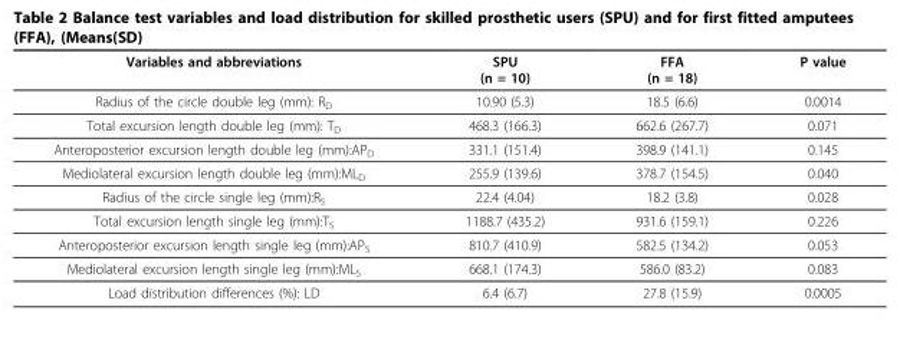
<table><thead><tr><td>Variables and abbreviations</td><td>SPU (n = 10)</td><td>FFA (n = 18)</td><td>P value</td></tr></thead><tbody><tr><td>Radius of the circle double leg (mm): R<sub>D</sub></td><td>10.90 (5.3)</td><td>18.5 (6.6)</td><td>0.0014</td></tr><tr><td>Total excursion length double leg (mm): T<sub>D</sub></td><td>468.3 (166.3)</td><td>662.6 (267.7)</td><td>0.071</td></tr><tr><td>Anteroposterior excursion length double leg (mm):AP<sub>D</sub></td><td>331.1 (151.4)</td><td>398.9 (141.1)</td><td>0.145</td></tr><tr><td>Mediolateral excursion length double leg (mm):ML<sub>D</sub></td><td>255.9 (139.6)</td><td>378.7 (154.5)</td><td>0.040</td></tr><tr><td>Radius of the circle single leg (mm):R<sub>S</sub></td><td>22.4 (4.04)</td><td>18.2 (3.8)</td><td>0.028</td></tr><tr><td>Total excursion length single leg (mm):T<sub>S</sub></td><td>1188.7 (435.2)</td><td>931.6 (159.1)</td><td>0.226</td></tr><tr><td>Anteroposterior excursion length single leg (mm):AP<sub>S</sub></td><td>810.7 (410.9)</td><td>582.5 (134.2)</td><td>0.053</td></tr><tr><td>Mediolateral excursion length single leg (mm):ML<sub>S</sub></td><td>668.1 (174.3)</td><td>586.0 (83.2)</td><td>0.083</td></tr><tr><td>Load distribution differences (%): LD</td><td>6.4 (6.7)</td><td>27.8 (15.9)</td><td>0.0005</td></tr></tbody></table>